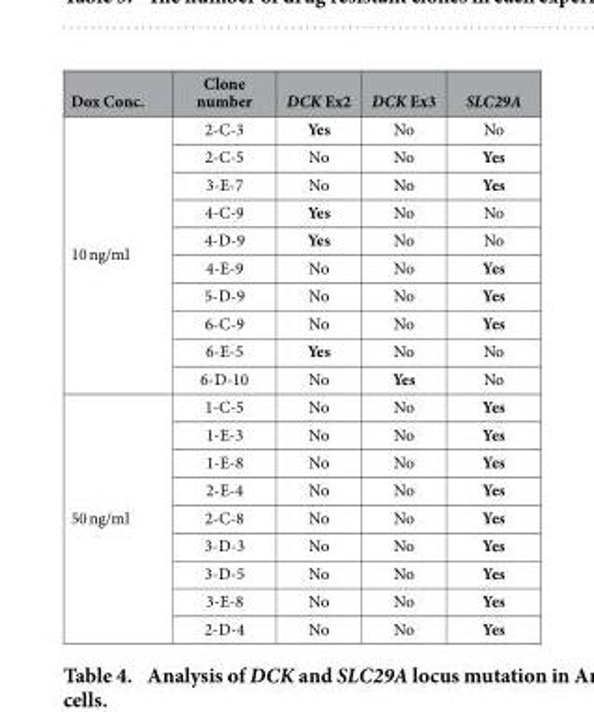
<table><thead><tr><td>Dox Conc.</td><td>Clone number</td><td>DCK Ex2</td><td>DCK Ex3</td><td>SLC29A</td></tr></thead><tbody><tr><td rowspan="10">10 ng/ml</td><td>2-C-3</td><td>Yes</td><td>No</td><td>No</td></tr><tr><td>2-C-5</td><td>No</td><td>No</td><td>Yes</td></tr><tr><td>3-E-7</td><td>No</td><td>No</td><td>Yes</td></tr><tr><td>4-C-9</td><td>Yes</td><td>No</td><td>No</td></tr><tr><td>4-D-9</td><td>Yes</td><td>No</td><td>No</td></tr><tr><td>4-E-9</td><td>No</td><td>No</td><td>Yes</td></tr><tr><td>5-D-9</td><td>No</td><td>No</td><td>Yes</td></tr><tr><td>6-C-9</td><td>No</td><td>No</td><td>Yes</td></tr><tr><td>6-E-5</td><td>Yes</td><td>No</td><td>No</td></tr><tr><td>6-D-10</td><td>No</td><td>Yes</td><td>No</td></tr><tr><td rowspan="9">50 ng/ml</td><td>1-C-5</td><td>No</td><td>No</td><td>Yes</td></tr><tr><td>1-E-3</td><td>No</td><td>No</td><td>Yes</td></tr><tr><td>1-E-8</td><td>No</td><td>No</td><td>Yes</td></tr><tr><td>2-E-4</td><td>No</td><td>No</td><td>Yes</td></tr><tr><td>2-C-8</td><td>No</td><td>No</td><td>Yes</td></tr><tr><td>3-D-3</td><td>No</td><td>No</td><td>Yes</td></tr><tr><td>3-D-5</td><td>No</td><td>No</td><td>Yes</td></tr><tr><td>3-E-8</td><td>No</td><td>No</td><td>Yes</td></tr><tr><td>2-D-4</td><td>No</td><td>No</td><td>Yes</td></tr></tbody></table>